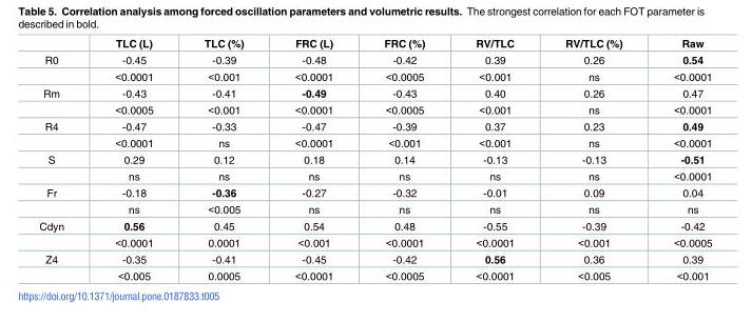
<table><thead><tr><td></td><td>TLC (L)</td><td>TLC (%)</td><td>FRC (L)</td><td>FRC (%)</td><td>RV/TLC</td><td>RV/TLC (%)</td><td>Raw</td></tr></thead><tbody><tr><td rowspan="2">R0</td><td>-0.45</td><td>-0.39</td><td>-0.48</td><td>-0.42</td><td>0.39</td><td>0.26</td><td>0.54</td></tr><tr><td>&lt;0.0001</td><td>&lt;0.001</td><td>&lt;0.0001</td><td>&lt;0.0005</td><td>&lt;0.001</td><td>ns</td><td>&lt;0.0001</td></tr><tr><td rowspan="2">Rm</td><td>-0.43</td><td>-0.41</td><td>-0.49</td><td>-0.43</td><td>0.40</td><td>0.26</td><td>0.47</td></tr><tr><td>&lt;0.0005</td><td>&lt;0.001</td><td>&lt;0.0001</td><td>&lt;0.0005</td><td>&lt;0.001</td><td>ns</td><td>&lt;0.0001</td></tr><tr><td rowspan="2">R4</td><td>-0.47</td><td>-0.33</td><td>-0.47</td><td>-0.39</td><td>0.37</td><td>0.23</td><td>0.49</td></tr><tr><td>&lt;0.0001</td><td>ns</td><td>&lt;0.0001</td><td>&lt;0.001</td><td>&lt;0.001</td><td>ns</td><td>&lt;0.0001</td></tr><tr><td rowspan="2">S</td><td>0.29</td><td>0.12</td><td>0.18</td><td>0.14</td><td>-0.13</td><td>-0.13</td><td>-0.51</td></tr><tr><td>ns</td><td>ns</td><td>ns</td><td>ns</td><td>ns</td><td>ns</td><td>&lt;0.0001</td></tr><tr><td rowspan="2">Fr</td><td>-0.18</td><td>-0.36</td><td>-0.27</td><td>-0.32</td><td>-0.01</td><td>0.09</td><td>0.04</td></tr><tr><td>ns</td><td>&lt;0.005</td><td>ns</td><td>ns</td><td>ns</td><td>ns</td><td>ns</td></tr><tr><td rowspan="2">Cdyn</td><td>0.56</td><td>0.45</td><td>0.54</td><td>0.48</td><td>-0.55</td><td>-0.39</td><td>-0.42</td></tr><tr><td>&lt;0.0001</td><td>0.0001</td><td>&lt;0.001</td><td>&lt;0.0001</td><td>&lt;0.0001</td><td>&lt;0.001</td><td>&lt;0.0005</td></tr><tr><td rowspan="2">Z4</td><td>-0.35</td><td>-0.41</td><td>-0.45</td><td>-0.42</td><td>0.56</td><td>0.36</td><td>0.39</td></tr><tr><td>&lt;0.005</td><td>0.0005</td><td>&lt;0.0001</td><td>&lt;0.0005</td><td>&lt;0.0001</td><td>&lt;0.005</td><td>&lt;0.001</td></tr></tbody></table>